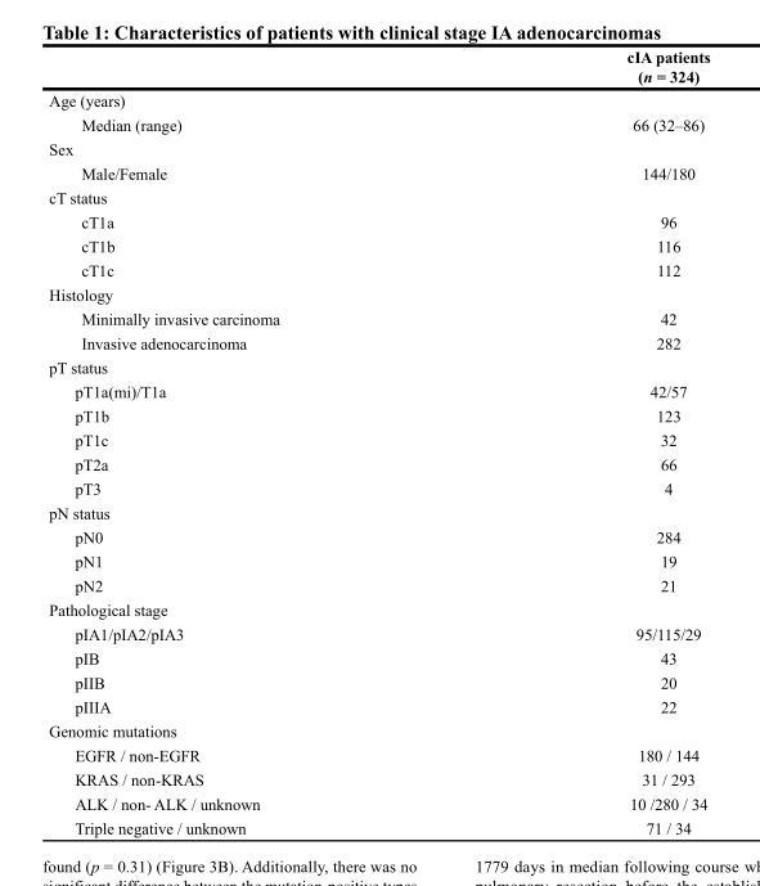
<table><thead><tr><td></td><td>cIA patients (n = 324)</td></tr></thead><tbody><tr><td colspan="2">Age (years)</td></tr><tr><td>Median (range)</td><td>66 (32–86)</td></tr><tr><td colspan="2">Sex</td></tr><tr><td>Male/Female</td><td>144/180</td></tr><tr><td colspan="2">cT status</td></tr><tr><td>cT1a</td><td>96</td></tr><tr><td>cT1b</td><td>116</td></tr><tr><td>cT1c</td><td>112</td></tr><tr><td colspan="2">Histology</td></tr><tr><td>Minimally invasive carcinoma</td><td>42</td></tr><tr><td>Invasive adenocarcinoma</td><td>282</td></tr><tr><td colspan="2">pT status</td></tr><tr><td>pT1a(mi)/T1a</td><td>42/57</td></tr><tr><td>pT1b</td><td>123</td></tr><tr><td>pT1c</td><td>32</td></tr><tr><td>pT2a</td><td>66</td></tr><tr><td>pT3</td><td>4</td></tr><tr><td colspan="2">pN status</td></tr><tr><td>pN0</td><td>284</td></tr><tr><td>pN1</td><td>19</td></tr><tr><td>pN2</td><td>21</td></tr><tr><td colspan="2">Pathological stage</td></tr><tr><td>pIA1/pIA2/pIA3</td><td>95/115/29</td></tr><tr><td>pIB</td><td>43</td></tr><tr><td>pIIB</td><td>20</td></tr><tr><td>pIIIA</td><td>22</td></tr><tr><td colspan="2">Genomic mutations</td></tr><tr><td>EGFR / non-EGFR</td><td>180 / 144</td></tr><tr><td>KRAS / non-KRAS</td><td>31 / 293</td></tr><tr><td>ALK / non- ALK / unknown</td><td>10 /280 / 34</td></tr><tr><td>Triple negative / unknown</td><td>71 / 34</td></tr></tbody></table>